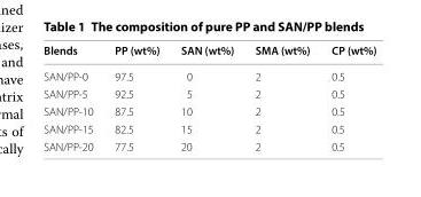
<table><thead><tr><td>Blends</td><td>PP (wt%)</td><td>SAN (wt%)</td><td>SMA (wt%)</td><td>CP (wt%)</td></tr></thead><tbody><tr><td>SAN/PP‑0</td><td>97.5</td><td>0</td><td>2</td><td>0.5</td></tr><tr><td>SAN/PP‑5</td><td>92.5</td><td>5</td><td>2</td><td>0.5</td></tr><tr><td>SAN/PP‑10</td><td>87.5</td><td>10</td><td>2</td><td>0.5</td></tr><tr><td>SAN/PP‑15</td><td>82.5</td><td>15</td><td>2</td><td>0.5</td></tr><tr><td>SAN/PP‑20</td><td>77.5</td><td>20</td><td>2</td><td>0.5</td></tr></tbody></table>